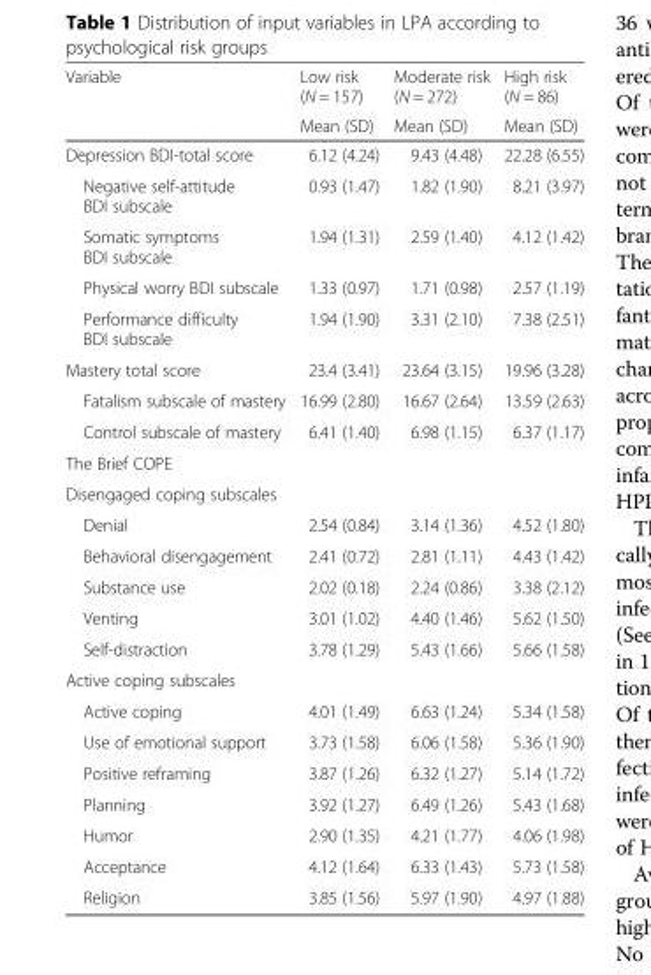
<table><thead><tr><td rowspan="2">Variable</td><td rowspan="2">Low risk (N = 157) Mean (SD)</td><td rowspan="2">Moderate risk (N = 272) Mean (SD)</td><td rowspan="2">High risk (N = 86) Mean (SD)</td></tr><tr></tr></thead><tbody><tr><td>Depression BDI-total score</td><td>6.12 (4.24)</td><td>9.43 (4.48)</td><td>22.28 (6.55)</td></tr><tr><td>Negative self-attitude BDI subscale</td><td>0.93 (1.47)</td><td>1.82 (1.90)</td><td>8.21 (3.97)</td></tr><tr><td>Somatic symptoms BDI subscale</td><td>1.94 (1.31)</td><td>2.59 (1.40)</td><td>4.12 (1.42)</td></tr><tr><td>Physical worry BDI subscale</td><td>1.33 (0.97)</td><td>1.71 (0.98)</td><td>2.57 (1.19)</td></tr><tr><td>Performance difficulty BDI subscale</td><td>1.94 (1.90)</td><td>3.31 (2.10)</td><td>7.38 (2.51)</td></tr><tr><td>Mastery total score</td><td>23.4 (3.41)</td><td>23.64 (3.15)</td><td>19.96 (3.28)</td></tr><tr><td>Fatalism subscale of mastery</td><td>16.99 (2.80)</td><td>16.67 (2.64)</td><td>13.59 (2.63)</td></tr><tr><td>Control subscale of mastery</td><td>6.41 (1.40)</td><td>6.98 (1.15)</td><td>6.37 (1.17)</td></tr><tr><td colspan="4">The Brief COPE</td></tr><tr><td colspan="4">Disengaged coping subscales</td></tr><tr><td>Denial</td><td>2.54 (0.84)</td><td>3.14 (1.36)</td><td>4.52 (1.80)</td></tr><tr><td>Behavioral disengagement</td><td>2.41 (0.72)</td><td>2.81 (1.11)</td><td>4.43 (1.42)</td></tr><tr><td>Substance use</td><td>2.02 (0.18)</td><td>2.24 (0.86)</td><td>3.38 (2.12)</td></tr><tr><td>Venting</td><td>3.01 (1.02)</td><td>4.40 (1.46)</td><td>5.62 (1.50)</td></tr><tr><td>Self-distraction</td><td>3.78 (1.29)</td><td>5.43 (1.66)</td><td>5.66 (1.58)</td></tr><tr><td colspan="4">Active coping subscales</td></tr><tr><td>Active coping</td><td>4.01 (1.49)</td><td>6.63 (1.24)</td><td>5.34 (1.58)</td></tr><tr><td>Use of emotional support</td><td>3.73 (1.58)</td><td>6.06 (1.58)</td><td>5.36 (1.90)</td></tr><tr><td>Positive reframing</td><td>3.87 (1.26)</td><td>6.32 (1.27)</td><td>5.14 (1.72)</td></tr><tr><td>Planning</td><td>3.92 (1.27)</td><td>6.49 (1.26)</td><td>5.43 (1.68)</td></tr><tr><td>Humor</td><td>2.90 (1.35)</td><td>4.21 (1.77)</td><td>4.06 (1.98)</td></tr><tr><td>Acceptance</td><td>4.12 (1.64)</td><td>6.33 (1.43)</td><td>5.73 (1.58)</td></tr><tr><td>Religion</td><td>3.85 (1.56)</td><td>5.97 (1.90)</td><td>4.97 (1.88)</td></tr></tbody></table>